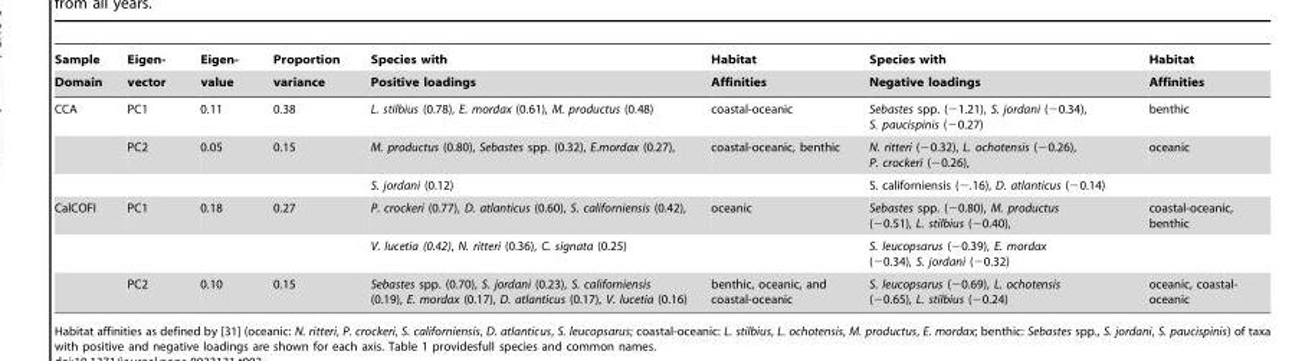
<table><thead><tr><td rowspan="2">Sample Domain</td><td rowspan="2">Eigen- vector</td><td rowspan="2">Eigen- value</td><td rowspan="2">Proportion variance</td><td rowspan="2">Species with Positive loadings</td><td rowspan="2">Habitat Affinities</td><td rowspan="2">Species with Negative loadings</td><td rowspan="2">Habitat Affinities</td></tr><tr></tr></thead><tbody><tr><td rowspan="3">CCA</td><td>PC1</td><td>0.11</td><td>0.38</td><td>L. stilbius (0.78), E. mordax (0.61), M. productus (0.48)</td><td>coastal-oceanic</td><td>Sebastes spp. (−1.21), S. jordani (−0.34), S. paucispinis (−0.27)</td><td>benthic</td></tr><tr><td>PC2</td><td>0.05</td><td>0.15</td><td>M. productus (0.80), Sebastes spp. (0.32), E.mordax (0.27),</td><td>coastal-oceanic, benthic</td><td>N. ritteri (−0.32), L. ochotensis (−0.26), P. crockeri (−0.26),</td><td>oceanic</td></tr><tr><td></td><td></td><td></td><td>S. jordani (0.12)</td><td></td><td>S. californiensis (−.16), D. atlanticus (−0.14)</td><td></td></tr><tr><td rowspan="3">CalCOFI</td><td>PC1</td><td>0.18</td><td>0.27</td><td>P. crockeri (0.77), D. atlanticus (0.60), S. californiensis (0.42),</td><td>oceanic</td><td>Sebastes spp. (−0.80), M. productus (−0.51), L. stilbius (−0.40),</td><td>coastal-oceanic, benthic</td></tr><tr><td></td><td></td><td></td><td>V. lucetia (0.42), N. ritteri (0.36), C. signata (0.25)</td><td></td><td>S. leucopsarus (−0.39), E. mordax (−0.34), S. jordani (−0.32)</td><td></td></tr><tr><td>PC2</td><td>0.10</td><td>0.15</td><td>Sebastes spp. (0.70), S. jordani (0.23), S. californiensis (0.19), E. mordax (0.17), D. atlanticus (0.17), V. lucetia (0.16)</td><td>benthic, oceanic, and coastal-oceanic</td><td>S. leucopsarus (−0.69), L. ochotensis (−0.65), L. stilbius (−0.24)</td><td>oceanic, coastal- oceanic</td></tr></tbody></table>